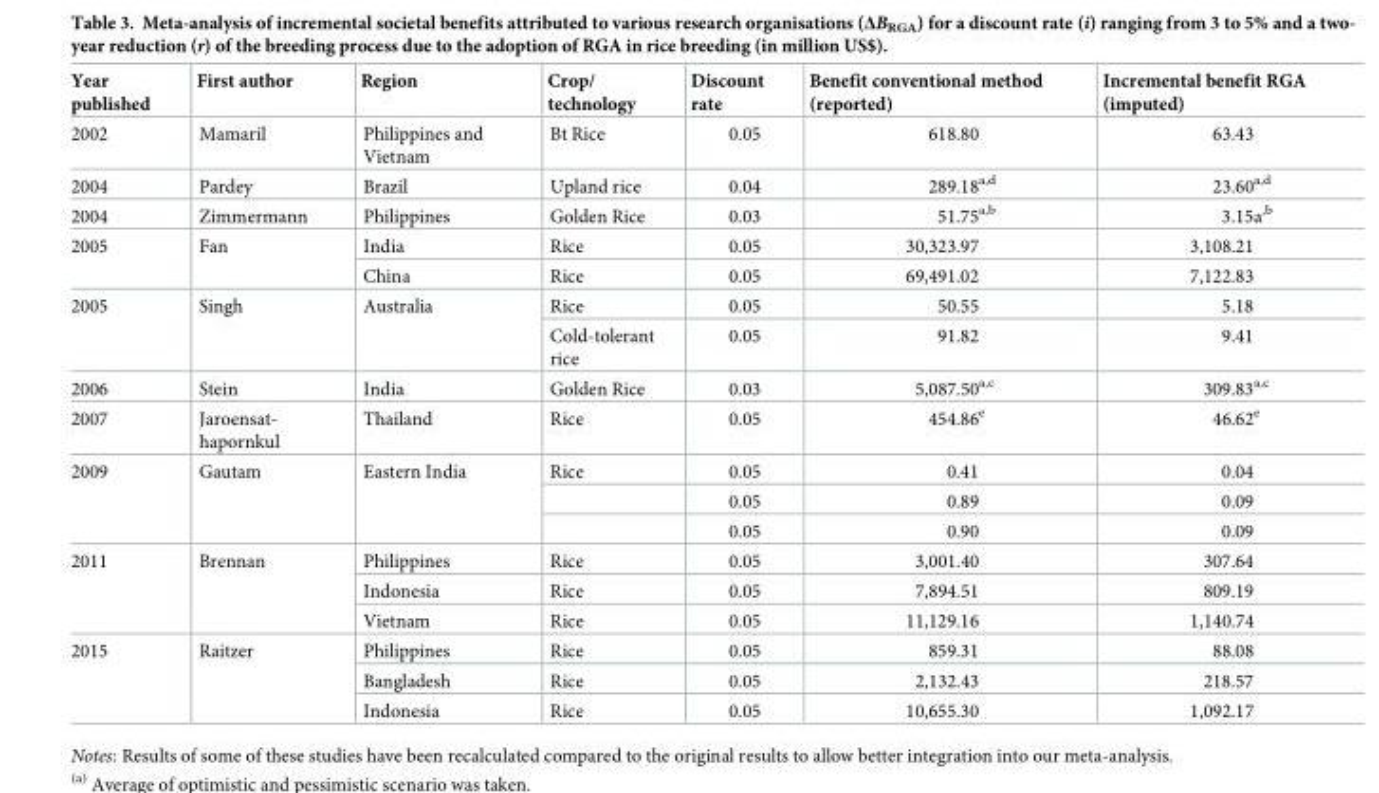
<table><thead><tr><td>Year published</td><td>First author</td><td>Region</td><td>Crop/ technology</td><td>Discount rate</td><td>Benefit conventional method (reported)</td><td>Incremental benefit RGA (imputed)</td></tr></thead><tbody><tr><td>2002</td><td>Mamaril</td><td>Philippines and Vietnam</td><td>Bt Rice</td><td>0.05</td><td>618.80</td><td>63.43</td></tr><tr><td>2004</td><td>Pardey</td><td>Brazil</td><td>Upland rice</td><td>0.04</td><td>289.18<sup>a,d</sup></td><td>23.60<sup>a,d</sup></td></tr><tr><td>2004</td><td>Zimmermann</td><td>Philippines</td><td>Golden Rice</td><td>0.03</td><td>51.75<sup>a,b</sup></td><td>3.15<sup>a,b</sup></td></tr><tr><td rowspan="2">2005</td><td rowspan="2">Fan</td><td>India</td><td>Rice</td><td>0.05</td><td>30,323.97</td><td>3,108.21</td></tr><tr><td>China</td><td>Rice</td><td>0.05</td><td>69,491.02</td><td>7,122.83</td></tr><tr><td rowspan="2">2005</td><td rowspan="2">Singh</td><td rowspan="2">Australia</td><td>Rice</td><td>0.05</td><td>50.55</td><td>5.18</td></tr><tr><td>Cold-tolerant rice</td><td>0.05</td><td>91.82</td><td>9.41</td></tr><tr><td>2006</td><td>Stein</td><td>India</td><td>Golden Rice</td><td>0.03</td><td>5,087.50<sup>a,c</sup></td><td>309.83<sup>a,c</sup></td></tr><tr><td>2007</td><td>Jaroensat- hapornkul</td><td>Thailand</td><td>Rice</td><td>0.05</td><td>454.86<sup>e</sup></td><td>46.62<sup>e</sup></td></tr><tr><td rowspan="3">2009</td><td rowspan="3">Gautam</td><td rowspan="3">Eastern India</td><td>Rice</td><td>0.05</td><td>0.41</td><td>0.04</td></tr><tr><td></td><td>0.05</td><td>0.89</td><td>0.09</td></tr><tr><td></td><td>0.05</td><td>0.90</td><td>0.09</td></tr><tr><td rowspan="3">2011</td><td rowspan="3">Brennan</td><td>Philippines</td><td>Rice</td><td>0.05</td><td>3,001.40</td><td>307.64</td></tr><tr><td>Indonesia</td><td>Rice</td><td>0.05</td><td>7,894.51</td><td>809.19</td></tr><tr><td>Vietnam</td><td>Rice</td><td>0.05</td><td>11,129.16</td><td>1,140.74</td></tr><tr><td rowspan="3">2015</td><td rowspan="3">Raitzer</td><td>Philippines</td><td>Rice</td><td>0.05</td><td>859.31</td><td>88.08</td></tr><tr><td>Bangladesh</td><td>Rice</td><td>0.05</td><td>2,132.43</td><td>218.57</td></tr><tr><td>Indonesia</td><td>Rice</td><td>0.05</td><td>10,655.30</td><td>1,092.17</td></tr></tbody></table>